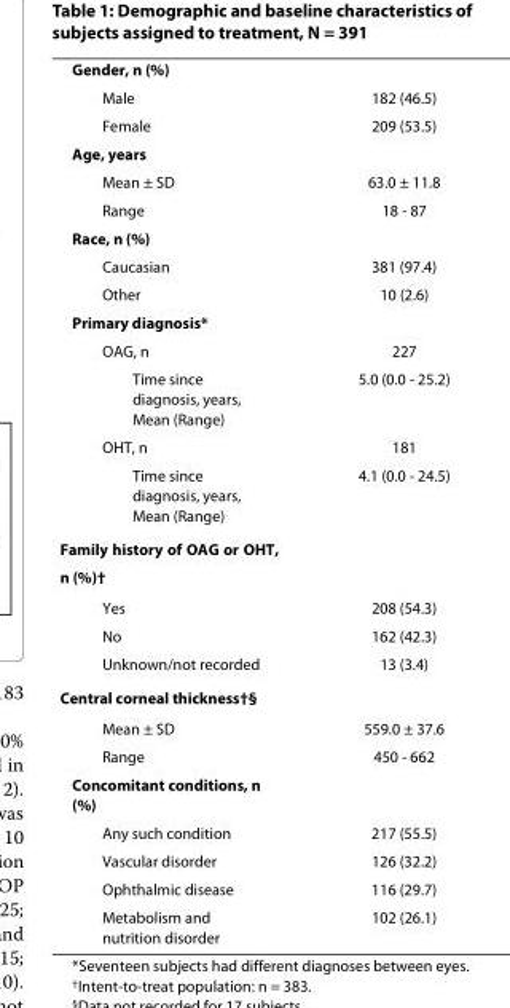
<table><tbody><tr><td colspan="2">Gender, n (%)</td></tr><tr><td>Male</td><td>182 (46.5)</td></tr><tr><td>Female</td><td>209 (53.5)</td></tr><tr><td colspan="2">Age, years</td></tr><tr><td>Mean ± SD</td><td>63.0 ± 11.8</td></tr><tr><td>Range</td><td>18 - 87</td></tr><tr><td colspan="2">Race, n (%)</td></tr><tr><td>Caucasian</td><td>381 (97.4)</td></tr><tr><td>Other</td><td>10 (2.6)</td></tr><tr><td colspan="2">Primary diagnosis*</td></tr><tr><td>OAG, n</td><td>227</td></tr><tr><td>Time since diagnosis, years, Mean (Range)</td><td>5.0 (0.0 - 25.2)</td></tr><tr><td>OHT, n</td><td>181</td></tr><tr><td>Time since diagnosis, years, Mean (Range)</td><td>4.1 (0.0 - 24.5)</td></tr><tr><td colspan="2">Family history of OAG or OHT, n (%)<sup>†</sup></td></tr><tr><td>Yes</td><td>208 (54.3)</td></tr><tr><td>No</td><td>162 (42.3)</td></tr><tr><td>Unknown/not recorded</td><td>13 (3.4)</td></tr><tr><td colspan="2">Central corneal thickness<sup>†§</sup></td></tr><tr><td>Mean ± SD</td><td>559.0 ± 37.6</td></tr><tr><td>Range</td><td>450 - 662</td></tr><tr><td colspan="2">Concomitant conditions, n (%)</td></tr><tr><td>Any such condition</td><td>217 (55.5)</td></tr><tr><td>Vascular disorder</td><td>126 (32.2)</td></tr><tr><td>Ophthalmic disease</td><td>116 (29.7)</td></tr><tr><td>Metabolism and nutrition disorder</td><td>102 (26.1)</td></tr></tbody></table>